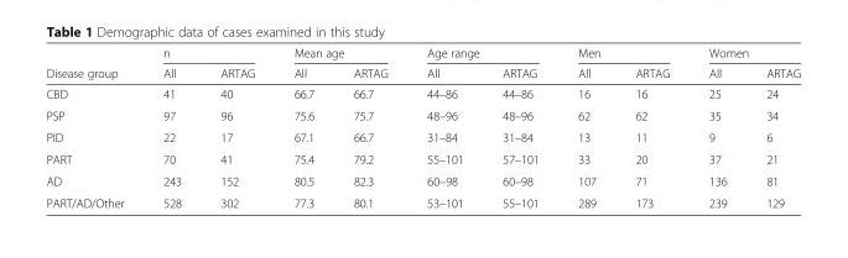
<table><thead><tr><td rowspan="2">Disease group</td><td colspan="2">n</td><td colspan="2">Mean age</td><td colspan="2">Age range</td><td colspan="2">Men</td><td colspan="2">Women</td></tr><tr><td>All</td><td>ARTAG</td><td>All</td><td>ARTAG</td><td>All</td><td>ARTAG</td><td>All</td><td>ARTAG</td><td>All</td><td>ARTAG</td></tr></thead><tbody><tr><td>CBD</td><td>41</td><td>40</td><td>66.7</td><td>66.7</td><td>44–86</td><td>44–86</td><td>16</td><td>16</td><td>25</td><td>24</td></tr><tr><td>PSP</td><td>97</td><td>96</td><td>75.6</td><td>75.7</td><td>48–96</td><td>48–96</td><td>62</td><td>62</td><td>35</td><td>34</td></tr><tr><td>PID</td><td>22</td><td>17</td><td>67.1</td><td>66.7</td><td>31–84</td><td>31–84</td><td>13</td><td>11</td><td>9</td><td>6</td></tr><tr><td>PART</td><td>70</td><td>41</td><td>75.4</td><td>79.2</td><td>55–101</td><td>57–101</td><td>33</td><td>20</td><td>37</td><td>21</td></tr><tr><td>AD</td><td>243</td><td>152</td><td>80.5</td><td>82.3</td><td>60–98</td><td>60–98</td><td>107</td><td>71</td><td>136</td><td>81</td></tr><tr><td>PART/AD/Other</td><td>528</td><td>302</td><td>77.3</td><td>80.1</td><td>53–101</td><td>55–101</td><td>289</td><td>173</td><td>239</td><td>129</td></tr></tbody></table>